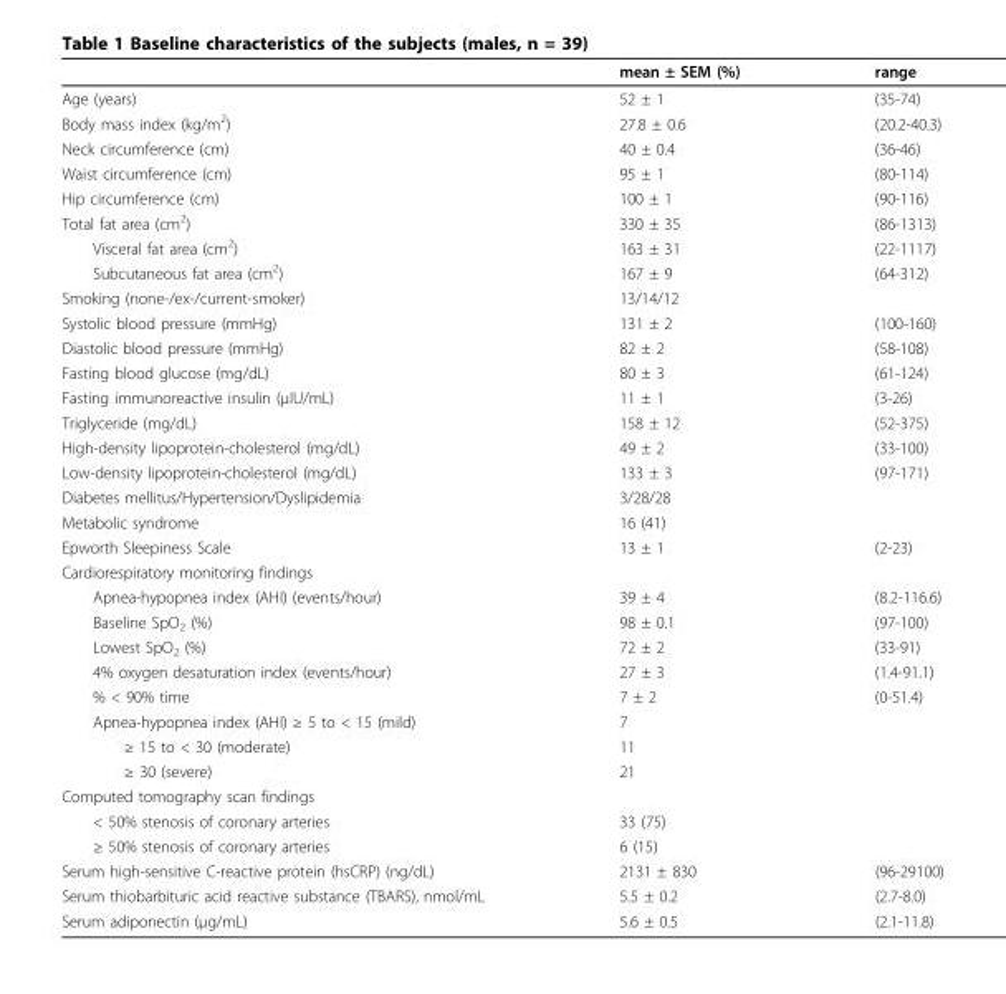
<table><thead><tr><td></td><td>mean ± SEM (%)</td><td>range</td></tr></thead><tbody><tr><td>Age (years)</td><td>52 ± 1</td><td>(35-74)</td></tr><tr><td>Body mass index (kg/m<sup>2</sup>)</td><td>27.8 ± 0.6</td><td>(20.2-40.3)</td></tr><tr><td>Neck circumference (cm)</td><td>40 ± 0.4</td><td>(36-46)</td></tr><tr><td>Waist circumference (cm)</td><td>95 ± 1</td><td>(80-114)</td></tr><tr><td>Hip circumference (cm)</td><td>100 ± 1</td><td>(90-116)</td></tr><tr><td>Total fat area (cm<sup>2</sup>)</td><td>330 ± 35</td><td>(86-1313)</td></tr><tr><td>Visceral fat area (cm<sup>2</sup>)</td><td>163 ± 31</td><td>(22-1117)</td></tr><tr><td>Subcutaneous fat area (cm<sup>2</sup>)</td><td>167 ± 9</td><td>(64-312)</td></tr><tr><td>Smoking (none-/ex-/current-smoker)</td><td>13/14/12</td><td></td></tr><tr><td>Systolic blood pressure (mmHg)</td><td>131 ± 2</td><td>(100-160)</td></tr><tr><td>Diastolic blood pressure (mmHg)</td><td>82 ± 2</td><td>(58-108)</td></tr><tr><td>Fasting blood glucose (mg/dL)</td><td>80 ± 3</td><td>(61-124)</td></tr><tr><td>Fasting immunoreactive insulin (μIU/mL)</td><td>11 ± 1</td><td>(3-26)</td></tr><tr><td>Triglyceride (mg/dL)</td><td>158 ± 12</td><td>(52-375)</td></tr><tr><td>High-density lipoprotein-cholesterol (mg/dL)</td><td>49 ± 2</td><td>(33-100)</td></tr><tr><td>Low-density lipoprotein-cholesterol (mg/dL)</td><td>133 ± 3</td><td>(97-171)</td></tr><tr><td>Diabetes mellitus/Hypertension/Dyslipidemia</td><td>3/28/28</td><td></td></tr><tr><td>Metabolic syndrome</td><td>16 (41)</td><td></td></tr><tr><td>Epworth Sleepiness Scale</td><td>13 ± 1</td><td>(2-23)</td></tr><tr><td colspan="3">Cardiorespiratory monitoring findings</td></tr><tr><td>Apnea-hypopnea index (AHI) (events/hour)</td><td>39 ± 4</td><td>(8.2-116.6)</td></tr><tr><td>Baseline SpO<sub>2</sub> (%)</td><td>98 ± 0.1</td><td>(97-100)</td></tr><tr><td>Lowest SpO<sub>2</sub> (%)</td><td>72 ± 2</td><td>(33-91)</td></tr><tr><td>4% oxygen desaturation index (events/hour)</td><td>27 ± 3</td><td>(1.4-91.1)</td></tr><tr><td>% &lt; 90% time</td><td>7 ± 2</td><td>(0-51.4)</td></tr><tr><td>Apnea-hypopnea index (AHI) ≥ 5 to &lt; 15 (mild)</td><td>7</td><td></td></tr><tr><td>≥ 15 to &lt; 30 (moderate)</td><td>11</td><td></td></tr><tr><td>≥ 30 (severe)</td><td>21</td><td></td></tr><tr><td colspan="3">Computed tomography scan findings</td></tr><tr><td>&lt; 50% stenosis of coronary arteries</td><td>33 (75)</td><td></td></tr><tr><td>≥ 50% stenosis of coronary arteries</td><td>6 (15)</td><td></td></tr><tr><td>Serum high-sensitive C-reactive protein (hsCRP) (ng/dL)</td><td>2131 ± 830</td><td>(96-29100)</td></tr><tr><td>Serum thiobarbituric acid reactive substance (TBARS), nmol/mL</td><td>5.5 ± 0.2</td><td>(2.7-8.0)</td></tr><tr><td>Serum adiponectin (μg/mL)</td><td>5.6 ± 0.5</td><td>(2.1-11.8)</td></tr></tbody></table>